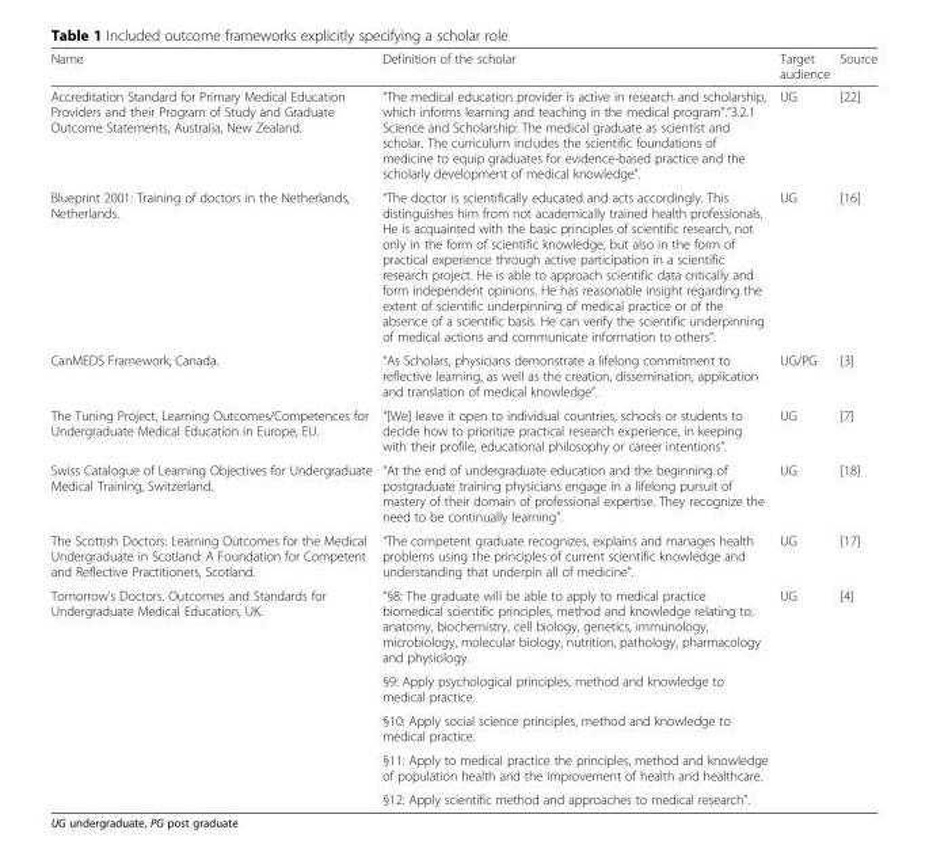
<table><thead><tr><td>Name</td><td>Definition of the scholar</td><td>Target audience</td><td>Source</td></tr></thead><tbody><tr><td>Accreditation Standard for Primary Medical Education Providers and their Program of Study and Graduate Outcome Statements, Australia, New Zealand.</td><td>“The medical education provider is active in research and scholarship, which informs learning and teaching in the medical program”.“3.2.1 Science and Scholarship: The medical graduate as scientist and scholar. The curriculum includes the scientific foundations of medicine to equip graduates for evidence-based practice and the scholarly development of medical knowledge”.</td><td>UG</td><td>[22]</td></tr><tr><td>Blueprint 2001: Training of doctors in the Netherlands, Netherlands.</td><td>“The doctor is scientifically educated and acts accordingly. This distinguishes him from not academically trained health professionals. He is acquainted with the basic principles of scientific research, not only in the form of scientific knowledge, but also in the form of practical experience through active participation in a scientific research project. He is able to approach scientific data critically and form independent opinions. He has reasonable insight regarding the extent of scientific underpinning of medical practice or of the absence of a scientific basis. He can verify the scientific underpinning of medical actions and communicate information to others”.</td><td>UG</td><td>[16]</td></tr><tr><td>CanMEDS Framework, Canada.</td><td>“As Scholars, physicians demonstrate a lifelong commitment to reflective learning, as well as the creation, dissemination, application and translation of medical knowledge”.</td><td>UG/PG</td><td>[3]</td></tr><tr><td>The Tuning Project, Learning Outcomes/Competences for Undergraduate Medical Education in Europe, EU.</td><td>“[We] leave it open to individual countries, schools or students to decide how to prioritize practical research experience, in keeping with their profile, educational philosophy or career intentions”.</td><td>UG</td><td>[7]</td></tr><tr><td>Swiss Catalogue of Learning Objectives for Undergraduate Medical Training, Switzerland.</td><td>“At the end of undergraduate education and the beginning of postgraduate training physicians engage in a lifelong pursuit of mastery of their domain of professional expertise. They recognize the need to be continually learning”.</td><td>UG</td><td>[18]</td></tr><tr><td>The Scottish Doctors: Learning Outcomes for the Medical Undergraduate in Scotland: A Foundation for Competent and Reflective Practitioners, Scotland.</td><td>“The competent graduate recognizes, explains and manages health problems using the principles of current scientific knowledge and understanding that underpin all of medicine”.</td><td>UG</td><td>[17]</td></tr><tr><td rowspan="5">Tomorrow’s Doctors. Outcomes and Standards for Undergraduate Medical Education, UK.</td><td>“§8: The graduate will be able to apply to medical practice biomedical scientific principles, method and knowledge relating to: anatomy, biochemistry, cell biology, genetics, immunology, microbiology, molecular biology, nutrition, pathology, pharmacology and physiology.</td><td rowspan="5">UG</td><td rowspan="5">[4]</td></tr><tr><td>§9: Apply psychological principles, method and knowledge to medical practice.</td></tr><tr><td>§10: Apply social science principles, method and knowledge to medical practice.</td></tr><tr><td>§11: Apply to medical practice the principles, method and knowledge of population health and the improvement of health and healthcare.</td></tr><tr><td>§12: Apply scientific method and approaches to medical research”.</td></tr></tbody></table>